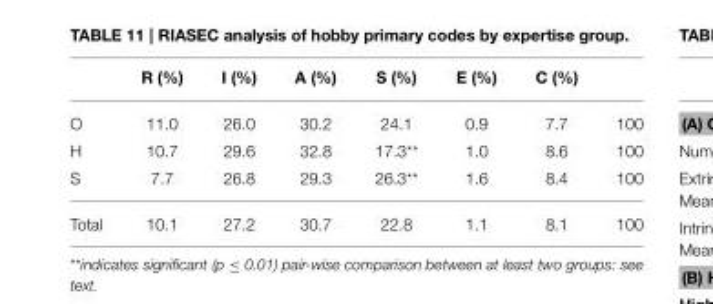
<table><thead><tr><td></td><td>R (%)</td><td>I (%)</td><td>A (%)</td><td>S (%)</td><td>E (%)</td><td>C (%)</td><td></td></tr></thead><tbody><tr><td>O</td><td>11.0</td><td>26.0</td><td>30.2</td><td>24.1</td><td>0.9</td><td>7.7</td><td>100</td></tr><tr><td>H</td><td>10.7</td><td>29.6</td><td>32.8</td><td>17.3**</td><td>1.0</td><td>8.6</td><td>100</td></tr><tr><td>S</td><td>7.7</td><td>26.8</td><td>29.3</td><td>26.3**</td><td>1.6</td><td>8.4</td><td>100</td></tr><tr><td>Total</td><td>10.1</td><td>27.2</td><td>30.7</td><td>22.8</td><td>1.1</td><td>8.1</td><td>100</td></tr></tbody></table>